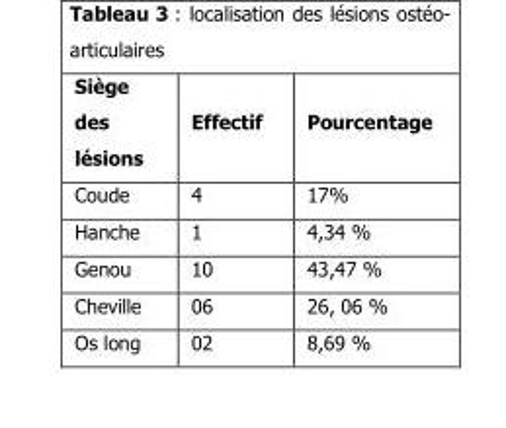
<table><thead><tr><td>Siège des lésions</td><td>Effectif</td><td>Pourcentage</td></tr></thead><tbody><tr><td>Coude</td><td>4</td><td>17%</td></tr><tr><td>Hanche</td><td>1</td><td>4,34 %</td></tr><tr><td>Genou</td><td>10</td><td>43,47 %</td></tr><tr><td>Cheville</td><td>06</td><td>26, 06 %</td></tr><tr><td>Os long</td><td>02</td><td>8,69 %</td></tr></tbody></table>